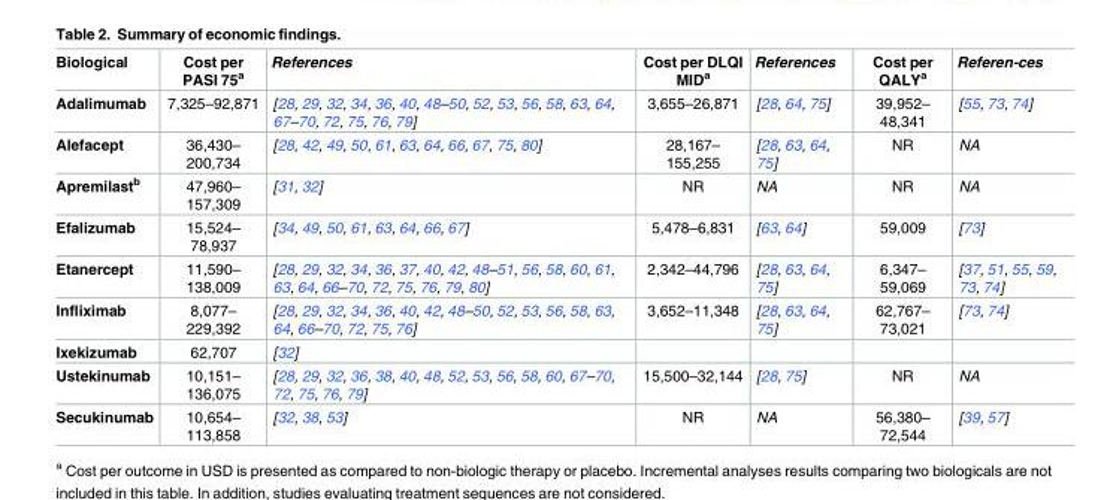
<table><thead><tr><td>Biological</td><td>Cost per PASI 75<sup>a</sup></td><td>References</td><td>Cost per DLQI MID<sup>a</sup></td><td>References</td><td>Cost per QALY<sup>a</sup></td><td>Referen-ces</td></tr></thead><tbody><tr><td>Adalimumab</td><td>7,325–92,871</td><td>[28, 29, 32, 34, 36, 40, 48–50, 52, 53, 56, 58, 63, 64, 67–70, 72, 75, 76, 79]</td><td>3,655–26,871</td><td>[28, 64, 75]</td><td>39,952– 48,341</td><td>[55, 73, 74]</td></tr><tr><td>Alefacept</td><td>36,430– 200,734</td><td>[28, 42, 49, 50, 61, 63, 64, 66, 67, 75, 80]</td><td>28,167– 155,255</td><td>[28, 63, 64, 75]</td><td>NR</td><td>NA</td></tr><tr><td>Apremilast<sup>b</sup></td><td>47,960– 157,309</td><td>[31, 32]</td><td>NR</td><td>NA</td><td>NR</td><td>NA</td></tr><tr><td>Efalizumab</td><td>15,524– 78,937</td><td>[34, 49, 50, 61, 63, 64, 66, 67]</td><td>5,478–6,831</td><td>[63, 64]</td><td>59,009</td><td>[73]</td></tr><tr><td>Etanercept</td><td>11,590– 138,009</td><td>[28, 29, 32, 34, 36, 37, 40, 42, 48–51, 56, 58, 60, 61, 63, 64, 66–70, 72, 75, 76, 79, 80]</td><td>2,342–44,796</td><td>[28, 63, 64, 75]</td><td>6,347– 59,069</td><td>[37, 51, 55, 59, 73, 74]</td></tr><tr><td>Infliximab</td><td>8,077– 229,392</td><td>[28, 29, 32, 34, 36, 40, 42, 48–50, 52, 53, 56, 58, 63, 64, 66–70, 72, 75, 76]</td><td>3,652–11,348</td><td>[28, 63, 64, 75]</td><td>62,767– 73,021</td><td>[73, 74]</td></tr><tr><td>Ixekizumab</td><td>62,707</td><td>[32]</td><td></td><td></td><td></td><td></td></tr><tr><td>Ustekinumab</td><td>10,151– 136,075</td><td>[28, 29, 32, 36, 38, 40, 48, 52, 53, 56, 58, 60, 67–70, 72, 75, 76, 79]</td><td>15,500–32,144</td><td>[28, 75]</td><td>NR</td><td>NA</td></tr><tr><td>Secukinumab</td><td>10,654– 113,858</td><td>[32, 38, 53]</td><td>NR</td><td>NA</td><td>56,380– 72,544</td><td>[39, 57]</td></tr></tbody></table>